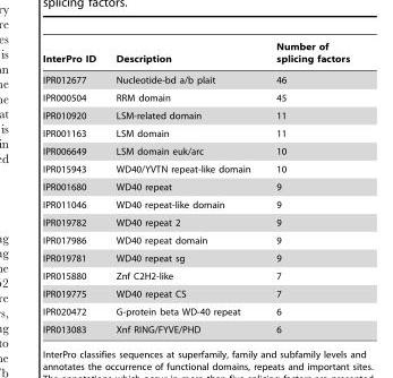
<table><thead><tr><td>InterPro ID</td><td>Description</td><td>Number of splicing factors</td></tr></thead><tbody><tr><td>IPR012677</td><td>Nucleotide-bd a/b plait</td><td>46</td></tr><tr><td>IPR000504</td><td>RRM domain</td><td>45</td></tr><tr><td>IPR010920</td><td>LSM-related domain</td><td>11</td></tr><tr><td>IPR001163</td><td>LSM domain</td><td>11</td></tr><tr><td>IPR006649</td><td>LSM domain euk/arc</td><td>10</td></tr><tr><td>IPR015943</td><td>WD40/YVTN repeat-like domain</td><td>10</td></tr><tr><td>IPR001680</td><td>WD40 repeat</td><td>9</td></tr><tr><td>IPR011046</td><td>WD40 repeat-like domain</td><td>9</td></tr><tr><td>IPR019782</td><td>WD40 repeat 2</td><td>9</td></tr><tr><td>IPR017986</td><td>WD40 repeat domain</td><td>9</td></tr><tr><td>IPR019781</td><td>WD40 repeat sg</td><td>9</td></tr><tr><td>IPR015880</td><td>Znf C2H2-like</td><td>7</td></tr><tr><td>IPR019775</td><td>WD40 repeat CS</td><td>7</td></tr><tr><td>IPR020472</td><td>G-protein beta WD-40 repeat</td><td>6</td></tr><tr><td>IPR013083</td><td>Xnf RING/FYVE/PHD</td><td>6</td></tr></tbody></table>